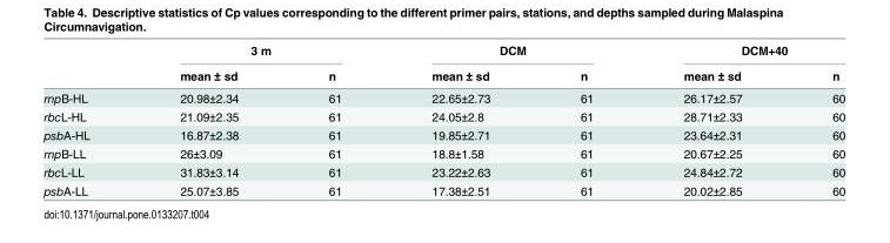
<table><thead><tr><td rowspan="2"></td><td colspan="2">3 m</td><td colspan="2">DCM</td><td colspan="2">DCM+40</td></tr><tr><td>mean ± sd</td><td>n</td><td>mean ± sd</td><td>n</td><td>mean ± sd</td><td>n</td></tr></thead><tbody><tr><td>rnpB-HL</td><td>20.98±2.34</td><td>61</td><td>22.65±2.73</td><td>61</td><td>26.17±2.57</td><td>60</td></tr><tr><td>rbcL-HL</td><td>21.09±2.35</td><td>61</td><td>24.05±2.8</td><td>61</td><td>28.71±2.33</td><td>60</td></tr><tr><td>psbA-HL</td><td>16.87±2.38</td><td>61</td><td>19.85±2.71</td><td>61</td><td>23.64±2.31</td><td>60</td></tr><tr><td>rnpB-LL</td><td>26±3.09</td><td>61</td><td>18.8±1.58</td><td>61</td><td>20.67±2.25</td><td>60</td></tr><tr><td>rbcL-LL</td><td>31.83±3.14</td><td>61</td><td>23.22±2.63</td><td>61</td><td>24.84±2.72</td><td>60</td></tr><tr><td>psbA-LL</td><td>25.07±3.85</td><td>61</td><td>17.38±2.51</td><td>61</td><td>20.02±2.85</td><td>60</td></tr></tbody></table>